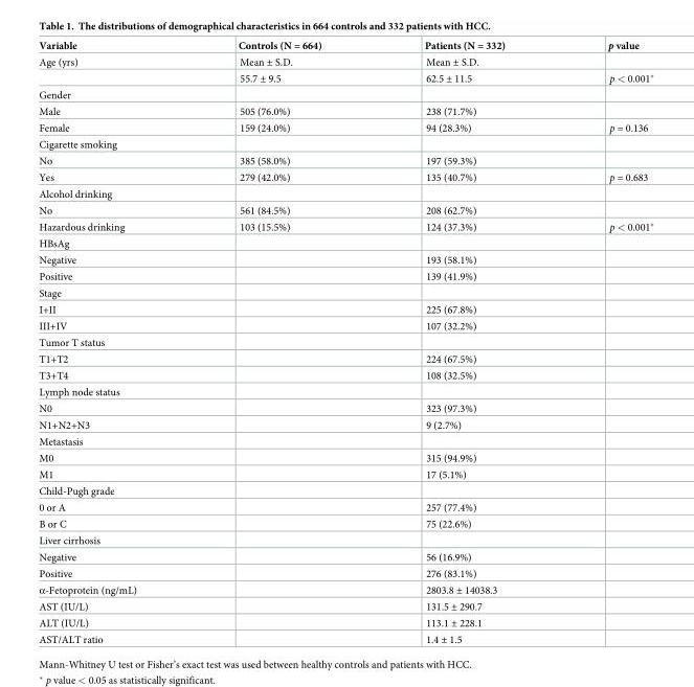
<table><thead><tr><td>Variable</td><td>Controls (N = 664)</td><td>Patients (N = 332)</td><td>p value</td></tr></thead><tbody><tr><td rowspan="2">Age (yrs)</td><td>Mean ± S.D.</td><td>Mean ± S.D.</td><td></td></tr><tr><td>55.7 ± 9.5</td><td>62.5 ± 11.5</td><td>p &lt; 0.001*</td></tr><tr><td colspan="4">Gender</td></tr><tr><td>Male</td><td>505 (76.0%)</td><td>238 (71.7%)</td><td></td></tr><tr><td>Female</td><td>159 (24.0%)</td><td>94 (28.3%)</td><td>p = 0.136</td></tr><tr><td colspan="4">Cigarette smoking</td></tr><tr><td>No</td><td>385 (58.0%)</td><td>197 (59.3%)</td><td></td></tr><tr><td>Yes</td><td>279 (42.0%)</td><td>135 (40.7%)</td><td>p = 0.683</td></tr><tr><td colspan="4">Alcohol drinking</td></tr><tr><td>No</td><td>561 (84.5%)</td><td>208 (62.7%)</td><td></td></tr><tr><td>Hazardous drinking</td><td>103 (15.5%)</td><td>124 (37.3%)</td><td>p &lt; 0.001*</td></tr><tr><td colspan="4">HBsAg</td></tr><tr><td>Negative</td><td></td><td>193 (58.1%)</td><td></td></tr><tr><td>Positive</td><td></td><td>139 (41.9%)</td><td></td></tr><tr><td colspan="4">Stage</td></tr><tr><td>I+II</td><td></td><td>225 (67.8%)</td><td></td></tr><tr><td>III+IV</td><td></td><td>107 (32.2%)</td><td></td></tr><tr><td colspan="4">Tumor T status</td></tr><tr><td>T1+T2</td><td></td><td>224 (67.5%)</td><td></td></tr><tr><td>T3+T4</td><td></td><td>108 (32.5%)</td><td></td></tr><tr><td colspan="4">Lymph node status</td></tr><tr><td>N0</td><td></td><td>323 (97.3%)</td><td></td></tr><tr><td>N1+N2+N3</td><td></td><td>9 (2.7%)</td><td></td></tr><tr><td colspan="4">Metastasis</td></tr><tr><td>M0</td><td></td><td>315 (94.9%)</td><td></td></tr><tr><td>M1</td><td></td><td>17 (5.1%)</td><td></td></tr><tr><td colspan="4">Child-Pugh grade</td></tr><tr><td>0 or A</td><td></td><td>257 (77.4%)</td><td></td></tr><tr><td>B or C</td><td></td><td>75 (22.6%)</td><td></td></tr><tr><td colspan="4">Liver cirrhosis</td></tr><tr><td>Negative</td><td></td><td>56 (16.9%)</td><td></td></tr><tr><td>Positive</td><td></td><td>276 (83.1%)</td><td></td></tr><tr><td>α-Fetoprotein (ng/mL)</td><td></td><td>2803.8 ± 14038.3</td><td></td></tr><tr><td>AST (IU/L)</td><td></td><td>131.5 ± 290.7</td><td></td></tr><tr><td>ALT (IU/L)</td><td></td><td>113.1 ± 228.1</td><td></td></tr><tr><td>AST/ALT ratio</td><td></td><td>1.4 ± 1.5</td><td></td></tr></tbody></table>